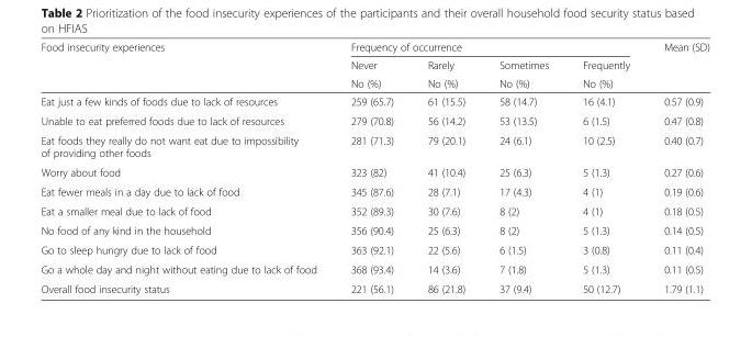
<table><thead><tr><td rowspan="3">Food insecurity experiences</td><td colspan="4">Frequency of occurrence</td><td rowspan="3">Mean (SD)</td></tr><tr><td rowspan="2">Never No (%)</td><td rowspan="2">Rarely No (%)</td><td rowspan="2">Sometimes No (%)</td><td rowspan="2">Frequently No (%)</td></tr><tr></tr></thead><tbody><tr><td>Eat just a few kinds of foods due to lack of resources</td><td>259 (65.7)</td><td>61 (15.5)</td><td>58 (14.7)</td><td>16 (4.1)</td><td>0.57 (0.9)</td></tr><tr><td>Unable to eat preferred foods due to lack of resources</td><td>279 (70.8)</td><td>56 (14.2)</td><td>53 (13.5)</td><td>6 (1.5)</td><td>0.47 (0.8)</td></tr><tr><td>Eat foods they really do not want eat due to impossibility of providing other foods</td><td>281 (71.3)</td><td>79 (20.1)</td><td>24 (6.1)</td><td>10 (2.5)</td><td>0.40 (0.7)</td></tr><tr><td>Worry about food</td><td>323 (82)</td><td>41 (10.4)</td><td>25 (6.3)</td><td>5 (1.3)</td><td>0.27 (0.6)</td></tr><tr><td>Eat fewer meals in a day due to lack of food</td><td>345 (87.6)</td><td>28 (7.1)</td><td>17 (4.3)</td><td>4 (1)</td><td>0.19 (0.6)</td></tr><tr><td>Eat a smaller meal due to lack of food</td><td>352 (89.3)</td><td>30 (7.6)</td><td>8 (2)</td><td>4 (1)</td><td>0.18 (0.5)</td></tr><tr><td>No food of any kind in the household</td><td>356 (90.4)</td><td>25 (6.3)</td><td>8 (2)</td><td>5 (1.3)</td><td>0.14 (0.5)</td></tr><tr><td>Go to sleep hungry due to lack of food</td><td>363 (92.1)</td><td>22 (5.6)</td><td>6 (1.5)</td><td>3 (0.8)</td><td>0.11 (0.4)</td></tr><tr><td>Go a whole day and night without eating due to lack of food</td><td>368 (93.4)</td><td>14 (3.6)</td><td>7 (1.8)</td><td>5 (1.3)</td><td>0.11 (0.5)</td></tr><tr><td>Overall food insecurity status</td><td>221 (56.1)</td><td>86 (21.8)</td><td>37 (9.4)</td><td>50 (12.7)</td><td>1.79 (1.1)</td></tr></tbody></table>